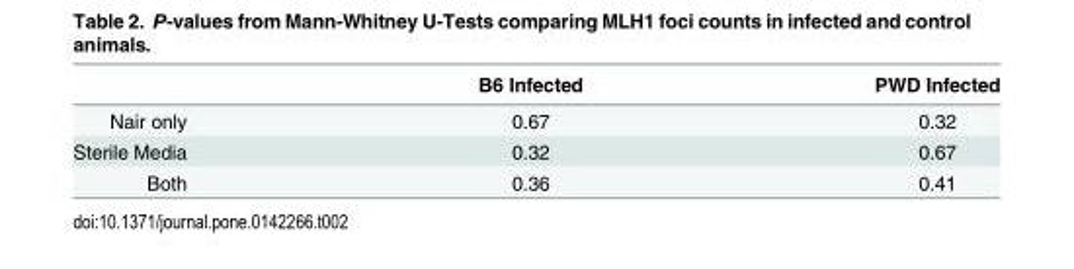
<table><thead><tr><td></td><td>B6 Infected</td><td>PWD Infected</td></tr></thead><tbody><tr><td>Nair only</td><td>0.67</td><td>0.32</td></tr><tr><td>Sterile Media</td><td>0.32</td><td>0.67</td></tr><tr><td>Both</td><td>0.36</td><td>0.41</td></tr></tbody></table>